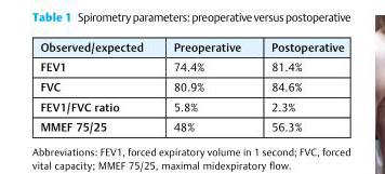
<table><thead><tr><td>Observed/expected</td><td>Preoperative</td><td>Postoperative</td></tr></thead><tbody><tr><td>FEV1</td><td>74.4%</td><td>81.4%</td></tr><tr><td>FVC</td><td>80.9%</td><td>84.6%</td></tr><tr><td>FEV1/FVC ratio</td><td>5.8%</td><td>2.3%</td></tr><tr><td>MMEF 75/25</td><td>48%</td><td>56.3%</td></tr></tbody></table>